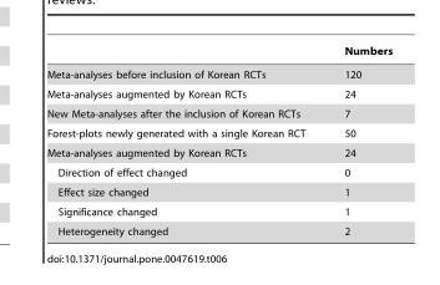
<table><thead><tr><td></td><td>Numbers</td></tr></thead><tbody><tr><td>Meta-analyses before inclusion of Korean RCTs</td><td>120</td></tr><tr><td>Meta-analyses augmented by Korean RCTs</td><td>24</td></tr><tr><td>New Meta-analyses after the inclusion of Korean RCTs</td><td>7</td></tr><tr><td>Forest-plots newly generated with a single Korean RCT</td><td>50</td></tr><tr><td>Meta-analyses augmented by Korean RCTs</td><td>24</td></tr><tr><td>Direction of effect changed</td><td>0</td></tr><tr><td>Effect size changed</td><td>1</td></tr><tr><td>Significance changed</td><td>1</td></tr><tr><td>Heterogeneity changed</td><td>2</td></tr></tbody></table>